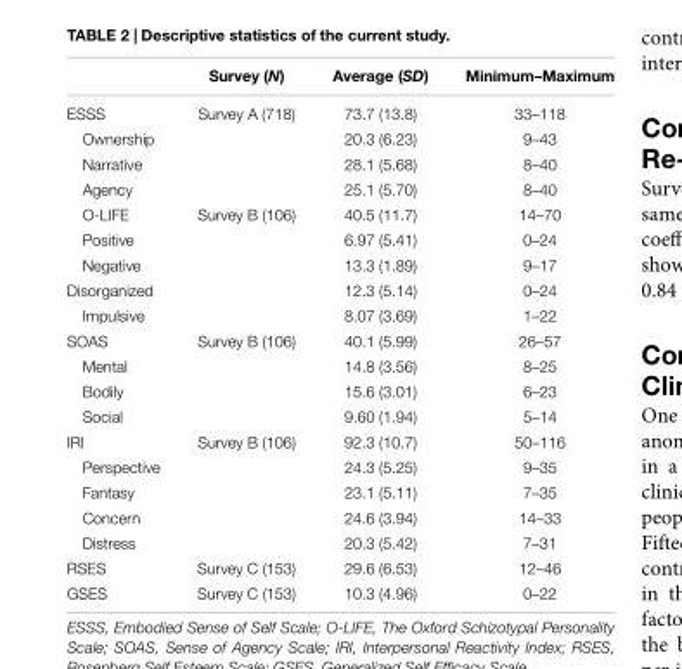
<table><thead><tr><td></td><td>Survey (N)</td><td>Average (SD)</td><td>Minimum–Maximum</td></tr></thead><tbody><tr><td>ESSS</td><td>Survey A (718)</td><td>73.7 (13.8)</td><td>33–118</td></tr><tr><td>Ownership</td><td></td><td>20.3 (6.23)</td><td>9–43</td></tr><tr><td>Narrative</td><td></td><td>28.1 (5.68)</td><td>8–40</td></tr><tr><td>Agency</td><td></td><td>25.1 (5.70)</td><td>8–40</td></tr><tr><td>O-LIFE</td><td>Survey B (106)</td><td>40.5 (11.7)</td><td>14–70</td></tr><tr><td>Positive</td><td></td><td>6.97 (5.41)</td><td>0–24</td></tr><tr><td>Negative</td><td></td><td>13.3 (1.89)</td><td>9–17</td></tr><tr><td>Disorganized</td><td></td><td>12.3 (5.14)</td><td>0–24</td></tr><tr><td>Impulsive</td><td></td><td>8.07 (3.69)</td><td>1–22</td></tr><tr><td>SOAS</td><td>Survey B (106)</td><td>40.1 (5.99)</td><td>26–57</td></tr><tr><td>Mental</td><td></td><td>14.8 (3.56)</td><td>8–25</td></tr><tr><td>Bodily</td><td></td><td>15.6 (3.01)</td><td>6–23</td></tr><tr><td>Social</td><td></td><td>9.60 (1.94)</td><td>5–14</td></tr><tr><td>IRI</td><td>Survey B (106)</td><td>92.3 (10.7)</td><td>50–116</td></tr><tr><td>Perspective</td><td></td><td>24.3 (5.25)</td><td>9–35</td></tr><tr><td>Fantasy</td><td></td><td>23.1 (5.11)</td><td>7–35</td></tr><tr><td>Concern</td><td></td><td>24.6 (3.94)</td><td>14–33</td></tr><tr><td>Distress</td><td></td><td>20.3 (5.42)</td><td>7–31</td></tr><tr><td>RSES</td><td>Survey C (153)</td><td>29.6 (6.53)</td><td>12–46</td></tr><tr><td>GSES</td><td>Survey C (153)</td><td>10.3 (4.96)</td><td>0–22</td></tr></tbody></table>